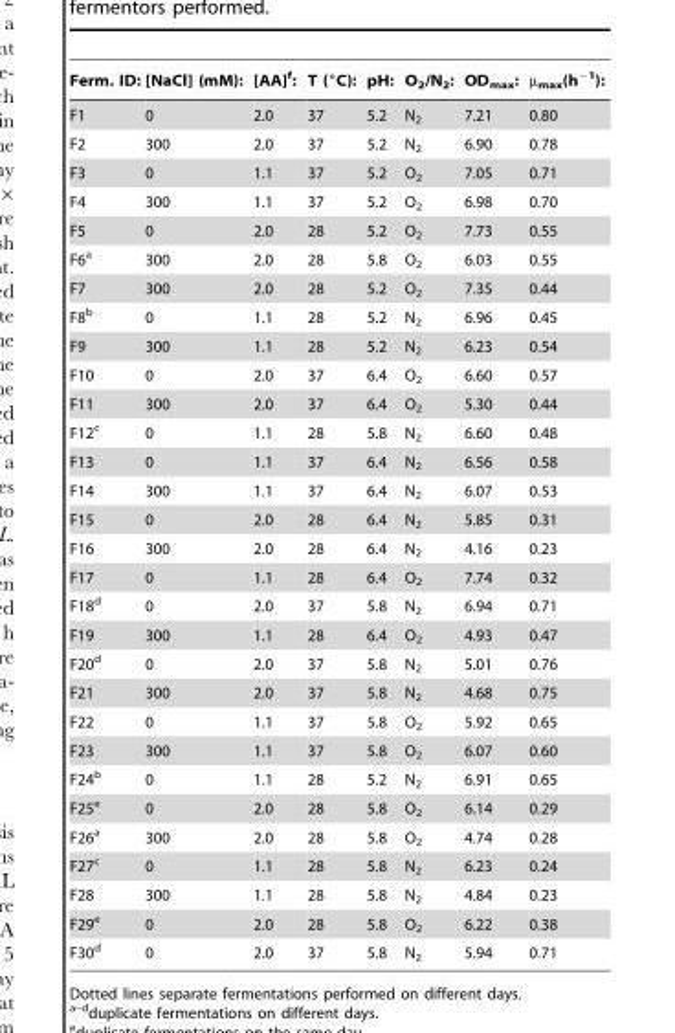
<table><thead><tr><td>Ferm. ID:</td><td>[NaCl] (mM):</td><td>[AA]<sup>f</sup>:</td><td>T (°C):</td><td>pH:</td><td>O<sub>2</sub>/N<sub>2</sub>:</td><td>OD<sub>max</sub>:</td><td>µ<sub>max</sub>(h<sup>−1</sup>):</td></tr></thead><tbody><tr><td>F1</td><td>0</td><td>2.0</td><td>37</td><td>5.2</td><td>N<sub>2</sub></td><td>7.21</td><td>0.80</td></tr><tr><td>F2</td><td>300</td><td>2.0</td><td>37</td><td>5.2</td><td>N<sub>2</sub></td><td>6.90</td><td>0.78</td></tr><tr><td>F3</td><td>0</td><td>1.1</td><td>37</td><td>5.2</td><td>O<sub>2</sub></td><td>7.05</td><td>0.71</td></tr><tr><td>F4</td><td>300</td><td>1.1</td><td>37</td><td>5.2</td><td>O<sub>2</sub></td><td>6.98</td><td>0.70</td></tr><tr><td>F5</td><td>0</td><td>2.0</td><td>28</td><td>5.2</td><td>O<sub>2</sub></td><td>7.73</td><td>0.55</td></tr><tr><td>F6<sup>a</sup></td><td>300</td><td>2.0</td><td>28</td><td>5.8</td><td>O<sub>2</sub></td><td>6.03</td><td>0.55</td></tr><tr><td>F7</td><td>300</td><td>2.0</td><td>28</td><td>5.2</td><td>O<sub>2</sub></td><td>7.35</td><td>0.44</td></tr><tr><td>F8<sup>b</sup></td><td>0</td><td>1.1</td><td>28</td><td>5.2</td><td>N<sub>2</sub></td><td>6.96</td><td>0.45</td></tr><tr><td>F9</td><td>300</td><td>1.1</td><td>28</td><td>5.2</td><td>N<sub>2</sub></td><td>6.23</td><td>0.54</td></tr><tr><td>F10</td><td>0</td><td>2.0</td><td>37</td><td>6.4</td><td>O<sub>2</sub></td><td>6.60</td><td>0.57</td></tr><tr><td>F11</td><td>300</td><td>2.0</td><td>37</td><td>6.4</td><td>O<sub>2</sub></td><td>5.30</td><td>0.44</td></tr><tr><td>F12<sup>c</sup></td><td>0</td><td>1.1</td><td>28</td><td>5.8</td><td>N<sub>2</sub></td><td>6.60</td><td>0.48</td></tr><tr><td>F13</td><td>0</td><td>1.1</td><td>37</td><td>6.4</td><td>N<sub>2</sub></td><td>6.56</td><td>0.58</td></tr><tr><td>F14</td><td>300</td><td>1.1</td><td>37</td><td>6.4</td><td>N<sub>2</sub></td><td>6.07</td><td>0.53</td></tr><tr><td>F15</td><td>0</td><td>2.0</td><td>28</td><td>6.4</td><td>N<sub>2</sub></td><td>5.85</td><td>0.31</td></tr><tr><td>F16</td><td>300</td><td>2.0</td><td>28</td><td>6.4</td><td>N<sub>2</sub></td><td>4.16</td><td>0.23</td></tr><tr><td>F17</td><td>0</td><td>1.1</td><td>28</td><td>6.4</td><td>O<sub>2</sub></td><td>7.74</td><td>0.32</td></tr><tr><td>F18<sup>d</sup></td><td>0</td><td>2.0</td><td>37</td><td>5.8</td><td>N<sub>2</sub></td><td>6.94</td><td>0.71</td></tr><tr><td>F19</td><td>300</td><td>1.1</td><td>28</td><td>6.4</td><td>O<sub>2</sub></td><td>4.93</td><td>0.47</td></tr><tr><td>F20<sup>d</sup></td><td>0</td><td>2.0</td><td>37</td><td>5.8</td><td>N<sub>2</sub></td><td>5.01</td><td>0.76</td></tr><tr><td>F21</td><td>300</td><td>2.0</td><td>37</td><td>5.8</td><td>N<sub>2</sub></td><td>4.68</td><td>0.75</td></tr><tr><td>F22</td><td>0</td><td>1.1</td><td>37</td><td>5.8</td><td>O<sub>2</sub></td><td>5.92</td><td>0.65</td></tr><tr><td>F23</td><td>300</td><td>1.1</td><td>37</td><td>5.8</td><td>O<sub>2</sub></td><td>6.07</td><td>0.60</td></tr><tr><td>F24<sup>b</sup></td><td>0</td><td>1.1</td><td>28</td><td>5.2</td><td>N<sub>2</sub></td><td>6.91</td><td>0.65</td></tr><tr><td>F25<sup>e</sup></td><td>0</td><td>2.0</td><td>28</td><td>5.8</td><td>O<sub>2</sub></td><td>6.14</td><td>0.29</td></tr><tr><td>F26<sup>a</sup></td><td>300</td><td>2.0</td><td>28</td><td>5.8</td><td>O<sub>2</sub></td><td>4.74</td><td>0.28</td></tr><tr><td>F27<sup>c</sup></td><td>0</td><td>1.1</td><td>28</td><td>5.8</td><td>N<sub>2</sub></td><td>6.23</td><td>0.24</td></tr><tr><td>F28</td><td>300</td><td>1.1</td><td>28</td><td>5.8</td><td>N<sub>2</sub></td><td>4.84</td><td>0.23</td></tr><tr><td>F29<sup>e</sup></td><td>0</td><td>2.0</td><td>28</td><td>5.8</td><td>O<sub>2</sub></td><td>6.22</td><td>0.38</td></tr><tr><td>F30<sup>d</sup></td><td>0</td><td>2.0</td><td>37</td><td>5.8</td><td>N<sub>2</sub></td><td>5.94</td><td>0.71</td></tr></tbody></table>